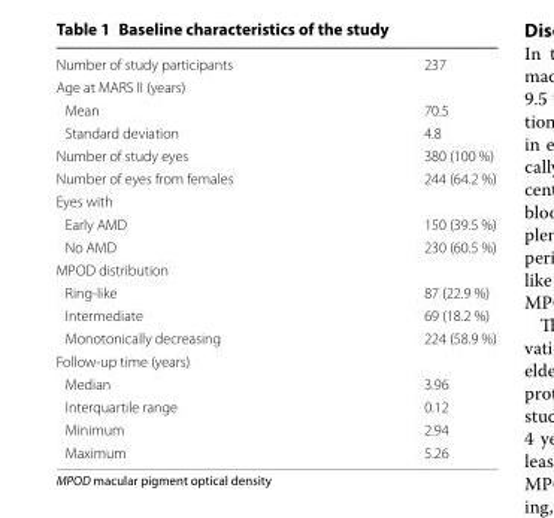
<table><tbody><tr><td>Number of study participants</td><td>237</td></tr><tr><td colspan="2">Age at MARS II (years)</td></tr><tr><td>Mean</td><td>70.5</td></tr><tr><td>Standard deviation</td><td>4.8</td></tr><tr><td>Number of study eyes</td><td>380 (100 %)</td></tr><tr><td>Number of eyes from females</td><td>244 (64.2 %)</td></tr><tr><td colspan="2">Eyes with</td></tr><tr><td>Early AMD</td><td>150 (39.5 %)</td></tr><tr><td>No AMD</td><td>230 (60.5 %)</td></tr><tr><td colspan="2">MPOD distribution</td></tr><tr><td>Ring‑like</td><td>87 (22.9 %)</td></tr><tr><td>Intermediate</td><td>69 (18.2 %)</td></tr><tr><td>Monotonically decreasing</td><td>224 (58.9 %)</td></tr><tr><td colspan="2">Follow‑up time (years)</td></tr><tr><td>Median</td><td>3.96</td></tr><tr><td>Interquartile range</td><td>0.12</td></tr><tr><td>Minimum</td><td>2.94</td></tr><tr><td>Maximum</td><td>5.26</td></tr></tbody></table>